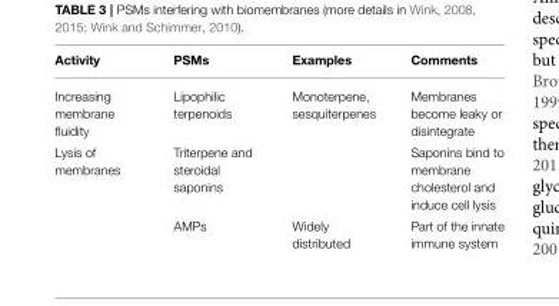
<table><thead><tr><td>Activity</td><td>PSMs</td><td>Examples</td><td>Comments</td></tr></thead><tbody><tr><td>Increasing membrane fluidity</td><td>Lipophilic terpenoids</td><td>Monoterpene, sesquiterpenes</td><td>Membranes become leaky or disintegrate</td></tr><tr><td rowspan="2">Lysis of membranes</td><td>Triterpene and steroidal saponins</td><td></td><td>Saponins bind to membrane cholesterol and induce cell lysis</td></tr><tr><td>AMPs</td><td>Widely distributed</td><td>Part of the innate immune system</td></tr></tbody></table>